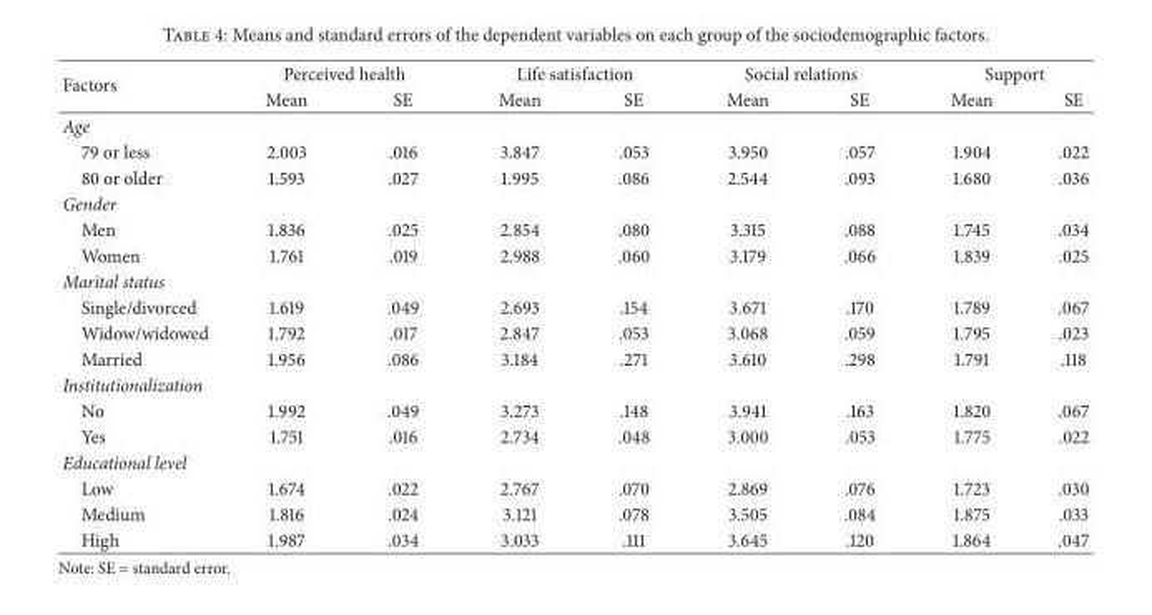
<table><thead><tr><td rowspan="2">Factors</td><td colspan="2">Perceived health</td><td colspan="2">Life satisfaction</td><td colspan="2">Social relations</td><td colspan="2">Support</td></tr><tr><td>Mean</td><td>SE</td><td>Mean</td><td>SE</td><td>Mean</td><td>SE</td><td>Mean</td><td>SE</td></tr></thead><tbody><tr><td colspan="9">Age</td></tr><tr><td>79 or less</td><td>2.003</td><td>.016</td><td>3.847</td><td>.053</td><td>3.950</td><td>.057</td><td>1.904</td><td>.022</td></tr><tr><td>80 or older</td><td>1.593</td><td>.027</td><td>1.995</td><td>.086</td><td>2.544</td><td>.093</td><td>1.680</td><td>.036</td></tr><tr><td colspan="9">Gender</td></tr><tr><td>Men</td><td>1.836</td><td>.025</td><td>2.854</td><td>.080</td><td>3.315</td><td>.088</td><td>1.745</td><td>.034</td></tr><tr><td>Women</td><td>1.761</td><td>.019</td><td>2.988</td><td>.060</td><td>3.179</td><td>.066</td><td>1.839</td><td>.025</td></tr><tr><td colspan="9">Marital status</td></tr><tr><td>Single/divorced</td><td>1.619</td><td>.049</td><td>2.693</td><td>.154</td><td>3.671</td><td>.170</td><td>1.789</td><td>.067</td></tr><tr><td>Widow/widowed</td><td>1.792</td><td>.017</td><td>2.847</td><td>.053</td><td>3.068</td><td>.059</td><td>1.795</td><td>.023</td></tr><tr><td>Married</td><td>1.956</td><td>.086</td><td>3.184</td><td>.271</td><td>3.610</td><td>.298</td><td>1.791</td><td>.118</td></tr><tr><td colspan="9">Institutionalization</td></tr><tr><td>No</td><td>1.992</td><td>.049</td><td>3.273</td><td>.148</td><td>3.941</td><td>.163</td><td>1.820</td><td>.067</td></tr><tr><td>Yes</td><td>1.751</td><td>.016</td><td>2.734</td><td>.048</td><td>3.000</td><td>.053</td><td>1.775</td><td>.022</td></tr><tr><td colspan="9">Educational level</td></tr><tr><td>Low</td><td>1.674</td><td>.022</td><td>2.767</td><td>.070</td><td>2.869</td><td>.076</td><td>1.723</td><td>.030</td></tr><tr><td>Medium</td><td>1.816</td><td>.024</td><td>3.121</td><td>.078</td><td>3.505</td><td>.084</td><td>1.875</td><td>.033</td></tr><tr><td>High</td><td>1.987</td><td>.034</td><td>3.033</td><td>.111</td><td>3.645</td><td>.120</td><td>1.864</td><td>.047</td></tr></tbody></table>